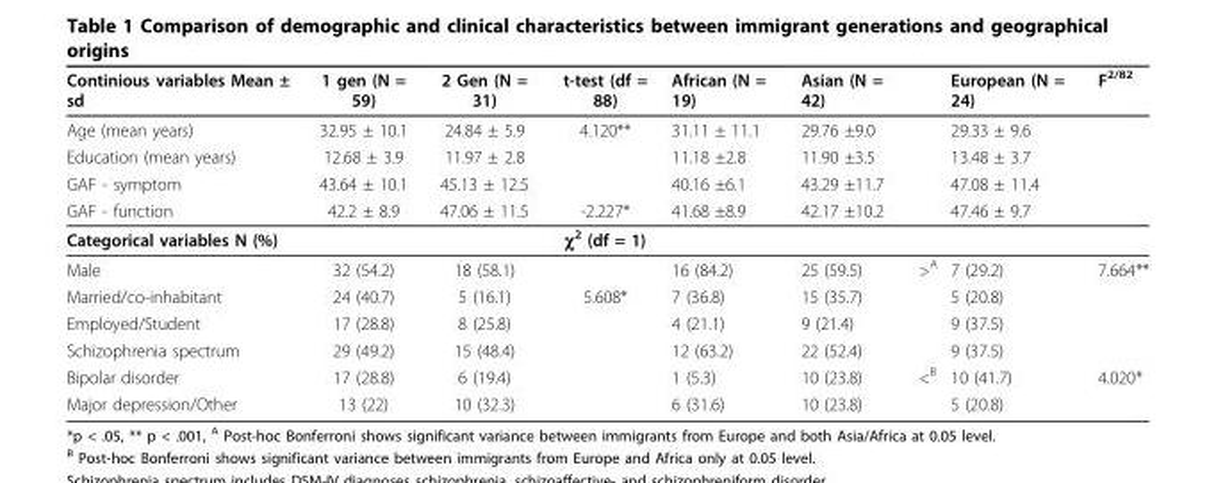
<table><thead><tr><td>Continious variables Mean ± sd</td><td>1 gen (N = 59)</td><td>2 Gen (N = 31)</td><td>t-test (df = 88)</td><td>African (N = 19)</td><td>Asian (N = 42)</td><td></td><td>European (N = 24)</td><td>F<sup>2/82</sup></td></tr></thead><tbody><tr><td>Age (mean years)</td><td>32.95 ± 10.1</td><td>24.84 ± 5.9</td><td>4.120**</td><td>31.11 ± 11.1</td><td>29.76 ±9.0</td><td></td><td>29.33 ± 9.6</td><td></td></tr><tr><td>Education (mean years)</td><td>12.68 ± 3.9</td><td>11.97 ± 2.8</td><td></td><td>11.18 ±2.8</td><td>11.90 ±3.5</td><td></td><td>13.48 ± 3.7</td><td></td></tr><tr><td>GAF - symptom</td><td>43.64 ± 10.1</td><td>45.13 ± 12.5</td><td></td><td>40.16 ±6.1</td><td>43.29 ±11.7</td><td></td><td>47.08 ± 11.4</td><td></td></tr><tr><td>GAF - function</td><td>42.2 ± 8.9</td><td>47.06 ± 11.5</td><td>-2.227*</td><td>41.68 ±8.9</td><td>42.17 ±10.2</td><td></td><td>47.46 ± 9.7</td><td></td></tr><tr><td>Categorical variables N (%)</td><td></td><td></td><td>χ<sup>2</sup> (df = 1)</td><td></td><td></td><td></td><td></td><td></td></tr><tr><td>Male</td><td>32 (54.2)</td><td>18 (58.1)</td><td></td><td>16 (84.2)</td><td>25 (59.5)</td><td>&gt;<sup>A</sup></td><td>7 (29.2)</td><td>7.664**</td></tr><tr><td>Married/co-inhabitant</td><td>24 (40.7)</td><td>5 (16.1)</td><td>5.608*</td><td>7 (36.8)</td><td>15 (35.7)</td><td></td><td>5 (20.8)</td><td></td></tr><tr><td>Employed/Student</td><td>17 (28.8)</td><td>8 (25.8)</td><td></td><td>4 (21.1)</td><td>9 (21.4)</td><td></td><td>9 (37.5)</td><td></td></tr><tr><td>Schizophrenia spectrum</td><td>29 (49.2)</td><td>15 (48.4)</td><td></td><td>12 (63.2)</td><td>22 (52.4)</td><td></td><td>9 (37.5)</td><td></td></tr><tr><td>Bipolar disorder</td><td>17 (28.8)</td><td>6 (19.4)</td><td></td><td>1 (5.3)</td><td>10 (23.8)</td><td>&lt;<sup>B</sup></td><td>10 (41.7)</td><td>4.020*</td></tr><tr><td>Major depression/Other</td><td>13 (22)</td><td>10 (32.3)</td><td></td><td>6 (31.6)</td><td>10 (23.8)</td><td></td><td>5 (20.8)</td><td></td></tr></tbody></table>